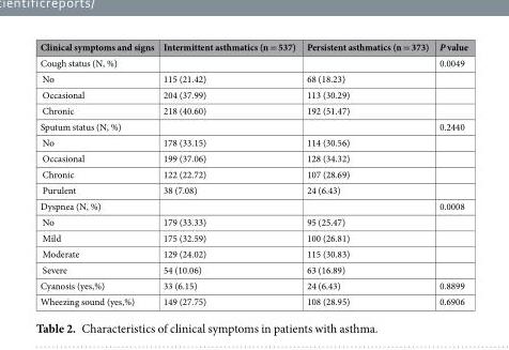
<table><thead><tr><td>Clinical symptoms and signs</td><td>Intermittent asthmatics (n = 537)</td><td>Persistent asthmatics (n = 373)</td><td>P value</td></tr></thead><tbody><tr><td>Cough status (N, %)</td><td></td><td></td><td>0.0049</td></tr><tr><td>No</td><td>115 (21.42)</td><td>68 (18.23)</td><td></td></tr><tr><td>Occasional</td><td>204 (37.99)</td><td>113 (30.29)</td><td></td></tr><tr><td>Chronic</td><td>218 (40.60)</td><td>192 (51.47)</td><td></td></tr><tr><td>Sputum status (N, %)</td><td></td><td></td><td>0.2440</td></tr><tr><td>No</td><td>178 (33.15)</td><td>114 (30.56)</td><td></td></tr><tr><td>Occasional</td><td>199 (37.06)</td><td>128 (34.32)</td><td></td></tr><tr><td>Chronic</td><td>122 (22.72)</td><td>107 (28.69)</td><td></td></tr><tr><td>Purulent</td><td>38 (7.08)</td><td>24 (6.43)</td><td></td></tr><tr><td>Dyspnea (N, %)</td><td></td><td></td><td>0.0008</td></tr><tr><td>No</td><td>179 (33.33)</td><td>95 (25.47)</td><td></td></tr><tr><td>Mild</td><td>175 (32.59)</td><td>100 (26.81)</td><td></td></tr><tr><td>Moderate</td><td>129 (24.02)</td><td>115 (30.83)</td><td></td></tr><tr><td>Severe</td><td>54 (10.06)</td><td>63 (16.89)</td><td></td></tr><tr><td>Cyanosis (yes,%)</td><td>33 (6.15)</td><td>24 (6.43)</td><td>0.8899</td></tr><tr><td>Wheezing sound (yes,%)</td><td>149 (27.75)</td><td>108 (28.95)</td><td>0.6906</td></tr></tbody></table>